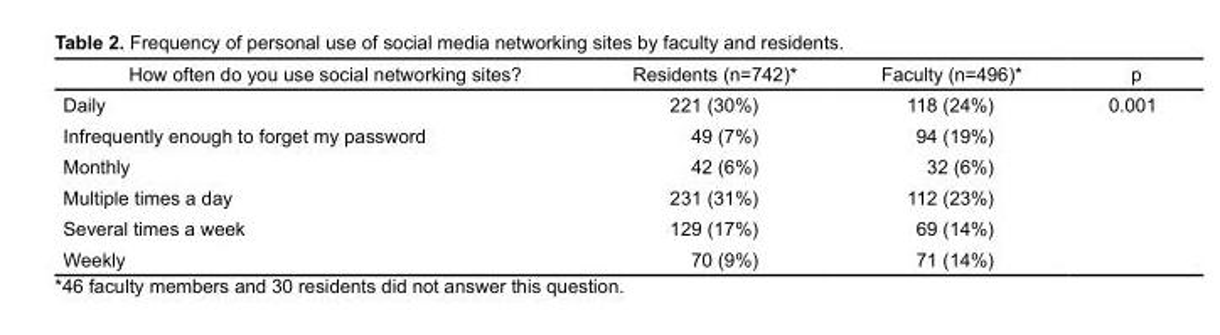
<table><thead><tr><td>How often do you use social networking sites?</td><td>Residents (n=742)*</td><td>Faculty (n=496)*</td><td>p</td></tr></thead><tbody><tr><td>Daily</td><td>221 (30%)</td><td>118 (24%)</td><td>0.001</td></tr><tr><td>Infrequently enough to forget my password</td><td>49 (7%)</td><td>94 (19%)</td><td></td></tr><tr><td>Monthly</td><td>42 (6%)</td><td>32 (6%)</td><td></td></tr><tr><td>Multiple times a day</td><td>231 (31%)</td><td>112 (23%)</td><td></td></tr><tr><td>Several times a week</td><td>129 (17%)</td><td>69 (14%)</td><td></td></tr><tr><td>Weekly</td><td>70 (9%)</td><td>71 (14%)</td><td></td></tr></tbody></table>